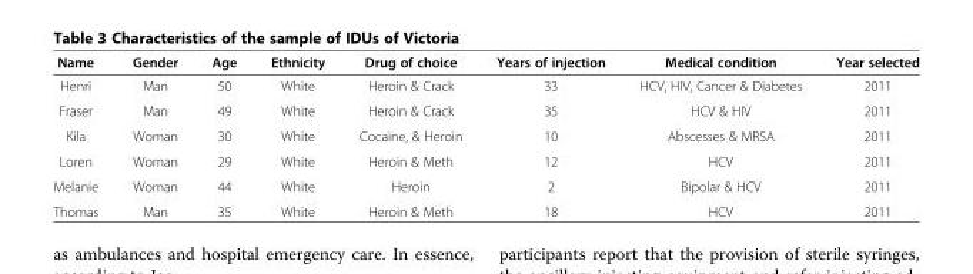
<table><thead><tr><td>Name</td><td>Gender</td><td>Age</td><td>Ethnicity</td><td>Drug of choice</td><td>Years of injection</td><td>Medical condition</td><td>Year selected</td></tr></thead><tbody><tr><td>Henri</td><td>Man</td><td>50</td><td>White</td><td>Heroin &amp; Crack</td><td>33</td><td>HCV, HIV, Cancer &amp; Diabetes</td><td>2011</td></tr><tr><td>Fraser</td><td>Man</td><td>49</td><td>White</td><td>Heroin &amp; Crack</td><td>35</td><td>HCV &amp; HIV</td><td>2011</td></tr><tr><td>Kila</td><td>Woman</td><td>30</td><td>White</td><td>Cocaine, &amp; Heroin</td><td>10</td><td>Abscesses &amp; MRSA</td><td>2011</td></tr><tr><td>Loren</td><td>Woman</td><td>29</td><td>White</td><td>Heroin &amp; Meth</td><td>12</td><td>HCV</td><td>2011</td></tr><tr><td>Melanie</td><td>Woman</td><td>44</td><td>White</td><td>Heroin</td><td>2</td><td>Bipolar &amp; HCV</td><td>2011</td></tr><tr><td>Thomas</td><td>Man</td><td>35</td><td>White</td><td>Heroin &amp; Meth</td><td>18</td><td>HCV</td><td>2011</td></tr></tbody></table>